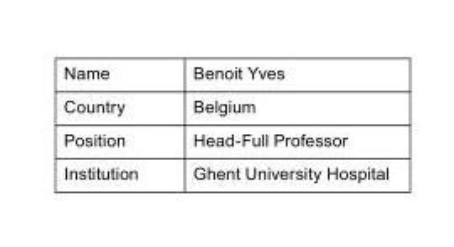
<table><tbody><tr><td>Name</td><td>Benoit Yves</td></tr><tr><td>Country</td><td>Belgium</td></tr><tr><td>Position</td><td>Head-Full Professor</td></tr><tr><td>Institution</td><td>Ghent University Hospital</td></tr></tbody></table>